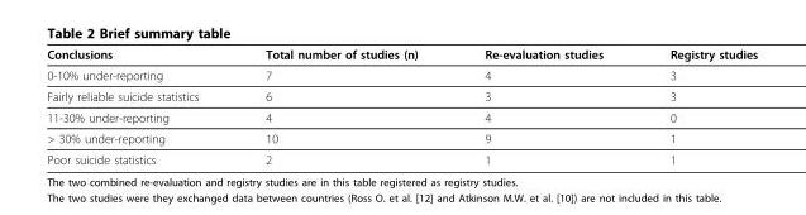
<table><thead><tr><td>Conclusions</td><td>Total number of studies (n)</td><td>Re-evaluation studies</td><td>Registry studies</td></tr></thead><tbody><tr><td>0-10% under-reporting</td><td>7</td><td>4</td><td>3</td></tr><tr><td>Fairly reliable suicide statistics</td><td>6</td><td>3</td><td>3</td></tr><tr><td>11-30% under-reporting</td><td>4</td><td>4</td><td>0</td></tr><tr><td>&gt; 30% under-reporting</td><td>10</td><td>9</td><td>1</td></tr><tr><td>Poor suicide statistics</td><td>2</td><td>1</td><td>1</td></tr></tbody></table>